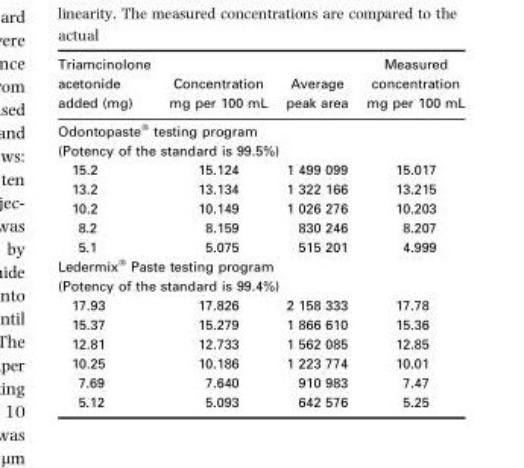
<table><thead><tr><td>Triamcinolone acetonide added (mg)</td><td>Concentration mg per 100 mL</td><td>Average peak area</td><td>Measured concentration mg per 100 mL</td></tr></thead><tbody><tr><td colspan="4">Odontopaste® testing program (Potency of the standard is 99.5%)</td></tr><tr><td>15.2</td><td>15.124</td><td>1 499 099</td><td>15.017</td></tr><tr><td>13.2</td><td>13.134</td><td>1 322 166</td><td>13.215</td></tr><tr><td>10.2</td><td>10.149</td><td>1 026 276</td><td>10.203</td></tr><tr><td>8.2</td><td>8.159</td><td>830 246</td><td>8.207</td></tr><tr><td>5.1</td><td>5.075</td><td>515 201</td><td>4.999</td></tr><tr><td colspan="4">Ledermix® Paste testing program (Potency of the standard is 99.4%)</td></tr><tr><td>17.93</td><td>17.826</td><td>2 158 333</td><td>17.78</td></tr><tr><td>15.37</td><td>15.279</td><td>1 866 610</td><td>15.36</td></tr><tr><td>12.81</td><td>12.733</td><td>1 562 085</td><td>12.85</td></tr><tr><td>10.25</td><td>10.186</td><td>1 223 774</td><td>10.01</td></tr><tr><td>7.69</td><td>7.640</td><td>910 983</td><td>7.47</td></tr><tr><td>5.12</td><td>5.093</td><td>642 576</td><td>5.25</td></tr></tbody></table>